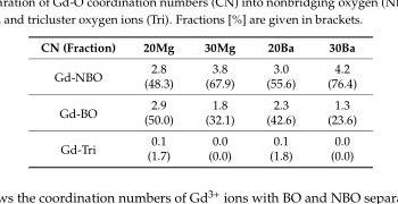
<table><thead><tr><td>CN (Fraction)</td><td>20Mg</td><td>30Mg</td><td>20Ba</td><td>30Ba</td></tr></thead><tbody><tr><td rowspan="2">Gd-NBO</td><td>2.8</td><td>3.8</td><td>3.0</td><td>4.2</td></tr><tr><td>(48.3)</td><td>(67.9)</td><td>(55.6)</td><td>(76.4)</td></tr><tr><td rowspan="2">Gd-BO</td><td>2.9</td><td>1.8</td><td>2.3</td><td>1.3</td></tr><tr><td>(50.0)</td><td>(32.1)</td><td>(42.6)</td><td>(23.6)</td></tr><tr><td rowspan="2">Gd-Tri</td><td>0.1</td><td>0.0</td><td>0.1</td><td>0.0</td></tr><tr><td>(1.7)</td><td>(0.0)</td><td>(1.8)</td><td>(0.0)</td></tr></tbody></table>